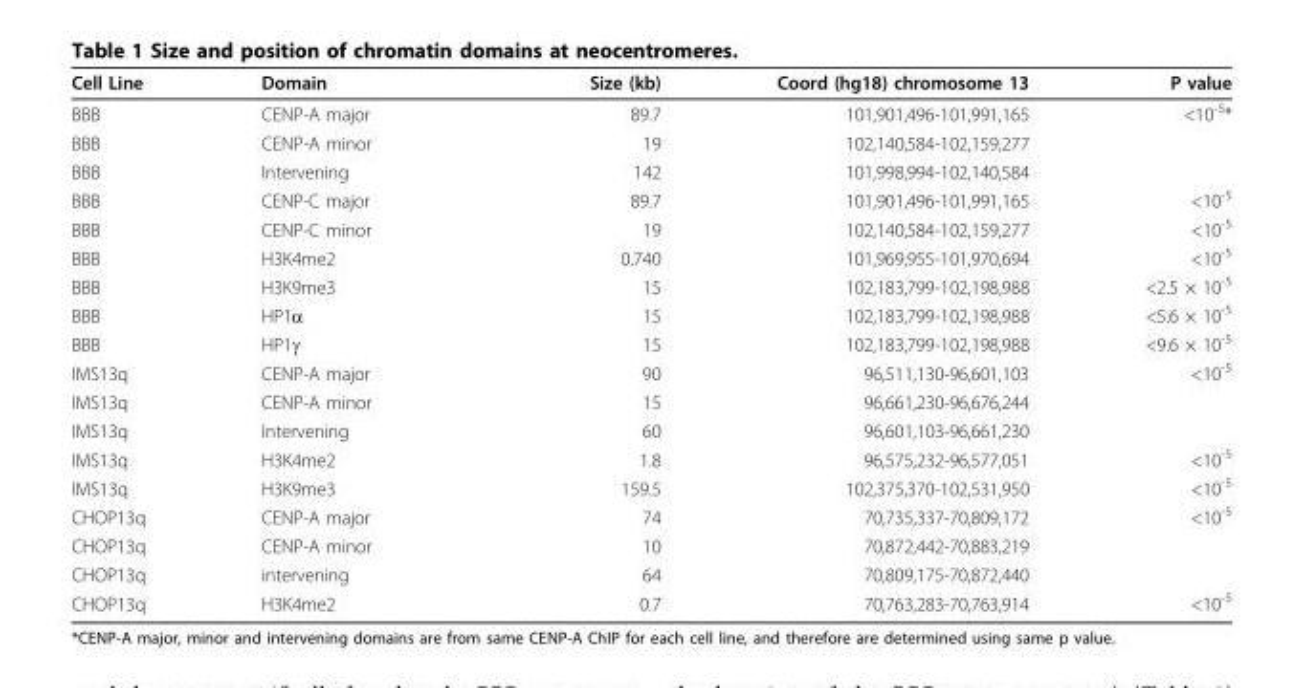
<table><thead><tr><td>Cell Line</td><td>Domain</td><td>Size (kb)</td><td>Coord (hg18) chromosome 13</td><td>P value</td></tr></thead><tbody><tr><td>BBB</td><td>CENP-A major</td><td>89.7</td><td>101,901,496-101,991,165</td><td>&lt;10<sup>-5</sup>*</td></tr><tr><td>BBB</td><td>CENP-A minor</td><td>19</td><td>102,140,584-102,159,277</td><td></td></tr><tr><td>BBB</td><td>Intervening</td><td>142</td><td>101,998,994-102,140,584</td><td></td></tr><tr><td>BBB</td><td>CENP-C major</td><td>89.7</td><td>101,901,496-101,991,165</td><td>&lt;10<sup>-5</sup></td></tr><tr><td>BBB</td><td>CENP-C minor</td><td>19</td><td>102,140,584-102,159,277</td><td>&lt;10<sup>-5</sup></td></tr><tr><td>BBB</td><td>H3K4me2</td><td>0.740</td><td>101,969,955-101,970,694</td><td>&lt;10<sup>-5</sup></td></tr><tr><td>BBB</td><td>H3K9me3</td><td>15</td><td>102,183,799-102,198,988</td><td>&lt;2.5 × 10<sup>-5</sup></td></tr><tr><td>BBB</td><td>HP1α</td><td>15</td><td>102,183,799-102,198,988</td><td>&lt;5.6 × 10<sup>-5</sup></td></tr><tr><td>BBB</td><td>HP1γ</td><td>15</td><td>102,183,799-102,198,988</td><td>&lt;9.6 × 10<sup>-5</sup></td></tr><tr><td>IMS13q</td><td>CENP-A major</td><td>90</td><td>96,511,130-96,601,103</td><td>&lt;10<sup>-5</sup></td></tr><tr><td>IMS13q</td><td>CENP-A minor</td><td>15</td><td>96,661,230-96,676,244</td><td></td></tr><tr><td>IMS13q</td><td>Intervening</td><td>60</td><td>96,601,103-96,661,230</td><td></td></tr><tr><td>IMS13q</td><td>H3K4me2</td><td>1.8</td><td>96,575,232-96,577,051</td><td>&lt;10<sup>-5</sup></td></tr><tr><td>IMS13q</td><td>H3K9me3</td><td>159.5</td><td>102,375,370-102,531,950</td><td>&lt;10<sup>-5</sup></td></tr><tr><td>CHOP13q</td><td>CENP-A major</td><td>74</td><td>70,735,337-70,809,172</td><td>&lt;10<sup>-5</sup></td></tr><tr><td>CHOP13q</td><td>CENP-A minor</td><td>10</td><td>70,872,442-70,883,219</td><td></td></tr><tr><td>CHOP13q</td><td>intervening</td><td>64</td><td>70,809,175-70,872,440</td><td></td></tr><tr><td>CHOP13q</td><td>H3K4me2</td><td>0.7</td><td>70,763,283-70,763,914</td><td>&lt;10<sup>-5</sup></td></tr></tbody></table>